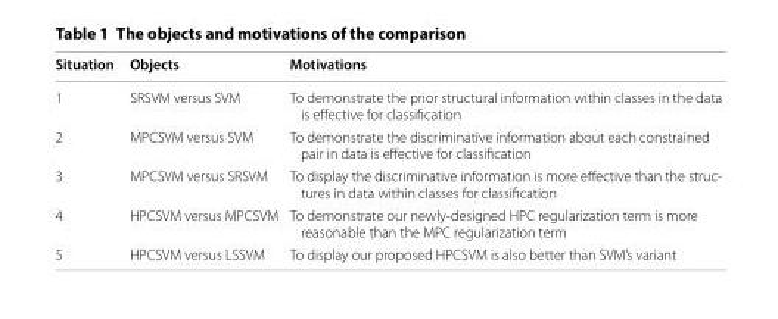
<table><thead><tr><td>Situation</td><td>Objects</td><td>Motivations</td></tr></thead><tbody><tr><td>1</td><td>SRSVM versus SVM</td><td>To demonstrate the prior structural information within classes in the data is effective for classification</td></tr><tr><td>2</td><td>MPCSVM versus SVM</td><td>To demonstrate the discriminative information about each constrained pair in data is effective for classification</td></tr><tr><td>3</td><td>MPCSVM versus SRSVM</td><td>To display the discriminative information is more effective than the struc- tures in data within classes for classification</td></tr><tr><td>4</td><td>HPCSVM versus MPCSVM</td><td>To demonstrate our newly-designed HPC regularization term is more reasonable than the MPC regularization term</td></tr><tr><td>5</td><td>HPCSVM versus LSSVM</td><td>To display our proposed HPCSVM is also better than SVM’s variant</td></tr></tbody></table>